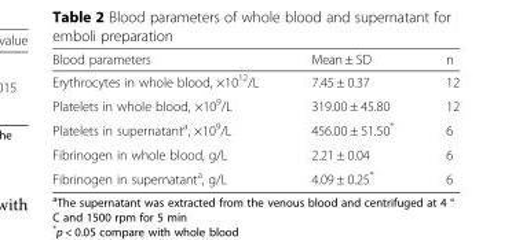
<table><thead><tr><td>Blood parameters</td><td>Mean ± SD</td><td>n</td></tr></thead><tbody><tr><td>Erythrocytes in whole blood, ×10<sup>12</sup>/L</td><td>7.45 ± 0.37</td><td>12</td></tr><tr><td>Platelets in whole blood, ×10<sup>9</sup>/L</td><td>319.00 ± 45.80</td><td>12</td></tr><tr><td>Platelets in supernatant<sup>a</sup>, ×10<sup>9</sup>/L</td><td>456.00 ± 51.50*</td><td>6</td></tr><tr><td>Fibrinogen in whole blood, g/L</td><td>2.21 ± 0.04</td><td>6</td></tr><tr><td>Fibrinogen in supernatant<sup>a</sup>, g/L</td><td>4.09 ± 0.25*</td><td>6</td></tr></tbody></table>